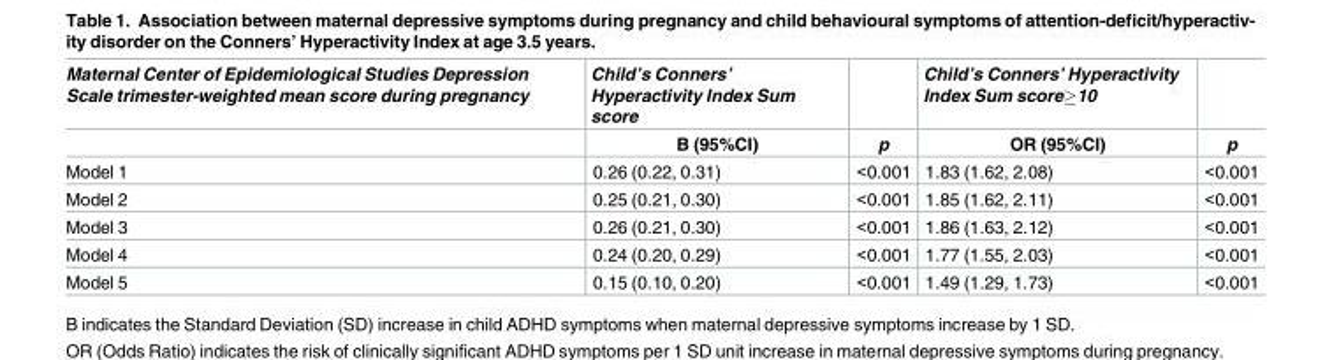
<table><thead><tr><td rowspan="2">Maternal Center of Epidemiological Studies Depression Scale trimester-weighted mean score during pregnancy</td><td rowspan="2">Child’s Conners’ Hyperactivity Index Sum score B (95%CI)</td><td rowspan="2">p</td><td rowspan="2">Child’s Conners’ Hyperactivity Index Sum score≥10 OR (95%CI)</td><td rowspan="2">p</td></tr><tr></tr></thead><tbody><tr><td>Model 1</td><td>0.26 (0.22, 0.31)</td><td>&lt;0.001</td><td>1.83 (1.62, 2.08)</td><td>&lt;0.001</td></tr><tr><td>Model 2</td><td>0.25 (0.21, 0.30)</td><td>&lt;0.001</td><td>1.85 (1.62, 2.11)</td><td>&lt;0.001</td></tr><tr><td>Model 3</td><td>0.26 (0.21, 0.30)</td><td>&lt;0.001</td><td>1.86 (1.63, 2.12)</td><td>&lt;0.001</td></tr><tr><td>Model 4</td><td>0.24 (0.20, 0.29)</td><td>&lt;0.001</td><td>1.77 (1.55, 2.03)</td><td>&lt;0.001</td></tr><tr><td>Model 5</td><td>0.15 (0.10, 0.20)</td><td>&lt;0.001</td><td>1.49 (1.29, 1.73)</td><td>&lt;0.001</td></tr></tbody></table>